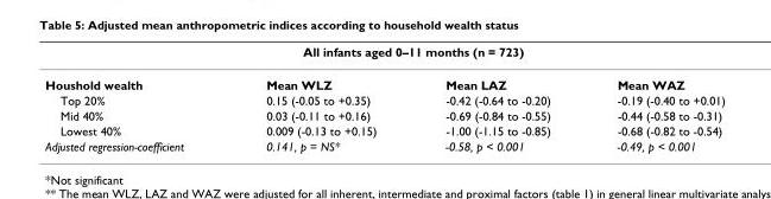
<table><thead><tr><td colspan="4">All infants aged 0–11 months (n = 723)</td></tr><tr><td>Houshold wealth</td><td>Mean WLZ</td><td>Mean LAZ</td><td>Mean WAZ</td></tr></thead><tbody><tr><td>Top 20%</td><td>0.15 (-0.05 to +0.35)</td><td>-0.42 (-0.64 to -0.20)</td><td>-0.19 (-0.40 to +0.01)</td></tr><tr><td>Mid 40%</td><td>0.03 (-0.11 to +0.16)</td><td>-0.69 (-0.84 to -0.55)</td><td>-0.44 (-0.58 to -0.31)</td></tr><tr><td>Lowest 40%</td><td>0.009 (-0.13 to +0.15)</td><td>-1.00 (-1.15 to -0.85)</td><td>-0.68 (-0.82 to -0.54)</td></tr><tr><td>Adjusted regression-coefficient</td><td>0.141, p = NS*</td><td>-0.58, p &lt; 0.001</td><td>-0.49, p &lt; 0.001</td></tr></tbody></table>